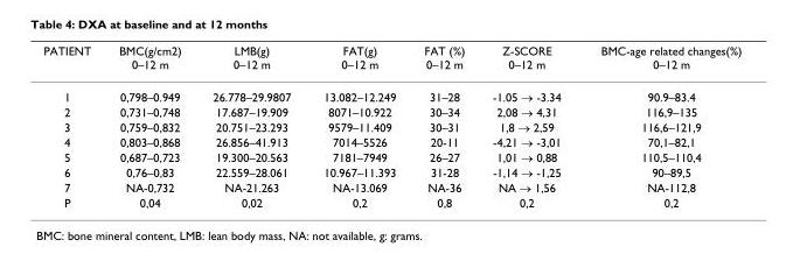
<table><thead><tr><td>PATIENT</td><td>BMC(g/cm2) 0–12 m</td><td>LMB(g) 0–12 m</td><td>FAT(g) 0–12 m</td><td>FAT (%) 0–12 m</td><td>Z-SCORE 0–12 m</td><td>BMC-age related changes(%) 0–12 m</td></tr></thead><tbody><tr><td>1</td><td>0,798–0.949</td><td>26.778–29.9807</td><td>13.082–12.249</td><td>31–28</td><td>-1.05 → -3.34</td><td>90.9–83.4</td></tr><tr><td>2</td><td>0,731–0,748</td><td>17.687–19.909</td><td>8071–10.922</td><td>30–34</td><td>2,08 → 4,31</td><td>116,9–135</td></tr><tr><td>3</td><td>0,759–0,832</td><td>20.751–23.293</td><td>9579–11.409</td><td>30–31</td><td>1,8 → 2,59</td><td>116,6–121,9</td></tr><tr><td>4</td><td>0,803–0,868</td><td>26.856–41.913</td><td>7014–5526</td><td>20-11</td><td>-4,21 → -3,01</td><td>70,1–82,1</td></tr><tr><td>5</td><td>0,687–0,723</td><td>19.300–20.563</td><td>7181–7949</td><td>26–27</td><td>1,01 → 0,88</td><td>110,5–110,4</td></tr><tr><td>6</td><td>0,76–0,83</td><td>22.559–28.061</td><td>10.967–11.393</td><td>31-28</td><td>-1,14 → -1,25</td><td>90–89,5</td></tr><tr><td>7</td><td>NA-0,732</td><td>NA-21.263</td><td>NA-13.069</td><td>NA-36</td><td>NA → 1,56</td><td>NA-112,8</td></tr><tr><td>P</td><td>0,04</td><td>0,02</td><td>0,2</td><td>0,8</td><td>0,2</td><td>0,2</td></tr></tbody></table>